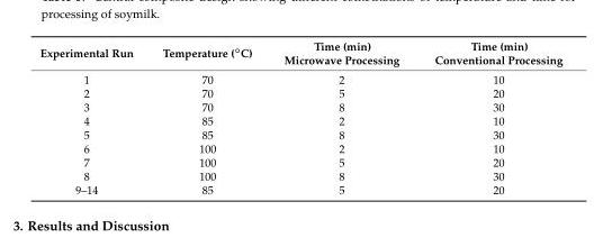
<table><thead><tr><td>Experimental Run</td><td>Temperature (◦C)</td><td>Time (min) Microwave Processing</td><td>Time (min) Conventional Processing</td></tr></thead><tbody><tr><td>1</td><td>70</td><td>2</td><td>10</td></tr><tr><td>2</td><td>70</td><td>5</td><td>20</td></tr><tr><td>3</td><td>70</td><td>8</td><td>30</td></tr><tr><td>4</td><td>85</td><td>2</td><td>10</td></tr><tr><td>5</td><td>85</td><td>8</td><td>30</td></tr><tr><td>6</td><td>100</td><td>2</td><td>10</td></tr><tr><td>7</td><td>100</td><td>5</td><td>20</td></tr><tr><td>8</td><td>100</td><td>8</td><td>30</td></tr><tr><td>9–14</td><td>85</td><td>5</td><td>20</td></tr></tbody></table>